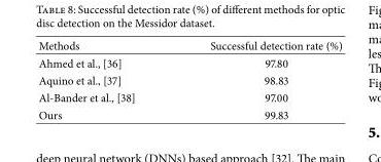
<table><thead><tr><td>Methods</td><td>Successful detection rate (%)</td></tr></thead><tbody><tr><td>Ahmed et al., [36]</td><td>97.80</td></tr><tr><td>Aquino et al., [37]</td><td>98.83</td></tr><tr><td>Al-Bander et al., [38]</td><td>97.00</td></tr><tr><td>Ours</td><td>99.83</td></tr></tbody></table>